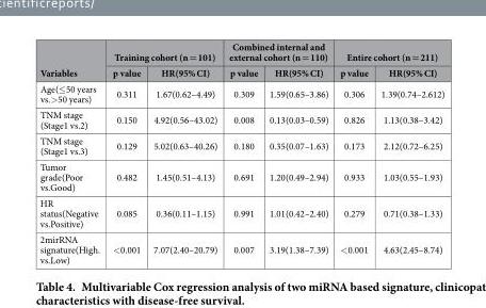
<table><thead><tr><td rowspan="2">Variables</td><td colspan="2">Training cohort (n = 101)</td><td colspan="2">Combined internal and external cohort (n = 110)</td><td colspan="2">Entire cohort (n = 211)</td></tr><tr><td>p value</td><td>HR(95% CI)</td><td>p value</td><td>HR(95% CI)</td><td>p value</td><td>HR(95% CI)</td></tr></thead><tbody><tr><td>Age(≤ 50 years vs.&gt; 50 years)</td><td>0.311</td><td>1.67(0.62–4.49)</td><td>0.309</td><td>1.59(0.65–3.86)</td><td>0.306</td><td>1.39(0.74–2.612)</td></tr><tr><td>TNM stage (Stage1 vs.2)</td><td>0.150</td><td>4.92(0.56–43.02)</td><td>0.008</td><td>0.13(0.03–0.59)</td><td>0.826</td><td>1.13(0.38–3.42)</td></tr><tr><td>TNM stage (Stage1 vs.3)</td><td>0.129</td><td>5.02(0.63–40.26)</td><td>0.180</td><td>0.35(0.07–1.63)</td><td>0.173</td><td>2.12(0.72–6.25)</td></tr><tr><td>Tumor grade(Poor vs.Good)</td><td>0.482</td><td>1.45(0.51–4.13)</td><td>0.691</td><td>1.20(0.49–2.94)</td><td>0.933</td><td>1.03(0.55–1.93)</td></tr><tr><td>HR status(Negative vs.Positive)</td><td>0.085</td><td>0.36(0.11–1.15)</td><td>0.991</td><td>1.01(0.42–2.40)</td><td>0.279</td><td>0.71(0.38–1.33)</td></tr><tr><td>2mirRNA signature(High. vs.Low)</td><td>&lt; 0.001</td><td>7.07(2.40–20.79)</td><td>0.007</td><td>3.19(1.38–7.39)</td><td>&lt; 0.001</td><td>4.63(2.45–8.74)</td></tr></tbody></table>